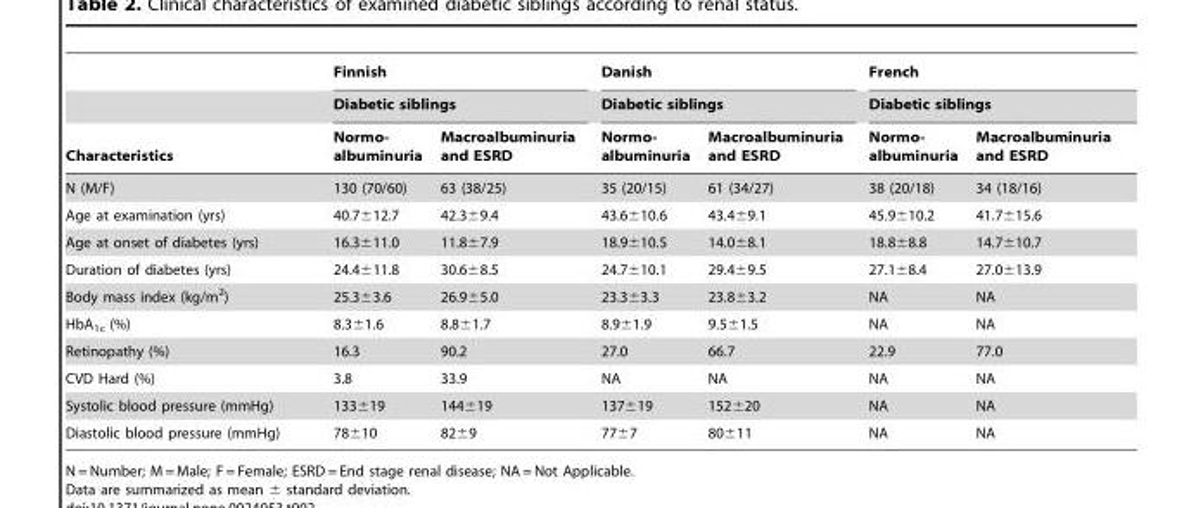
<table><thead><tr><td rowspan="3">Characteristics</td><td rowspan="2" colspan="2">Finnish Diabetic siblings</td><td rowspan="2" colspan="2">Danish Diabetic siblings</td><td rowspan="2" colspan="2">French Diabetic siblings</td></tr><tr></tr><tr><td>Normo- albuminuria</td><td>Macroalbuminuria and ESRD</td><td>Normo- albuminuria</td><td>Macroalbuminuria and ESRD</td><td>Normo- albuminuria</td><td>Macroalbuminuria and ESRD</td></tr></thead><tbody><tr><td>N (M/F)</td><td>130 (70/60)</td><td>63 (38/25)</td><td>35 (20/15)</td><td>61 (34/27)</td><td>38 (20/18)</td><td>34 (18/16)</td></tr><tr><td>Age at examination (yrs)</td><td>40.7±12.7</td><td>42.3±9.4</td><td>43.6±10.6</td><td>43.4±9.1</td><td>45.9±10.2</td><td>41.7±15.6</td></tr><tr><td>Age at onset of diabetes (yrs)</td><td>16.3±11.0</td><td>11.8±7.9</td><td>18.9±10.5</td><td>14.0±8.1</td><td>18.8±8.8</td><td>14.7±10.7</td></tr><tr><td>Duration of diabetes (yrs)</td><td>24.4±11.8</td><td>30.6±8.5</td><td>24.7±10.1</td><td>29.4±9.5</td><td>27.1±8.4</td><td>27.0±13.9</td></tr><tr><td>Body mass index (kg/m<sup>2</sup>)</td><td>25.3±3.6</td><td>26.9±5.0</td><td>23.3±3.3</td><td>23.8±3.2</td><td>NA</td><td>NA</td></tr><tr><td>HbA<sub>1c</sub> (%)</td><td>8.3±1.6</td><td>8.8±1.7</td><td>8.9±1.9</td><td>9.5±1.5</td><td>NA</td><td>NA</td></tr><tr><td>Retinopathy (%)</td><td>16.3</td><td>90.2</td><td>27.0</td><td>66.7</td><td>22.9</td><td>77.0</td></tr><tr><td>CVD Hard (%)</td><td>3.8</td><td>33.9</td><td>NA</td><td>NA</td><td>NA</td><td>NA</td></tr><tr><td>Systolic blood pressure (mmHg)</td><td>133±19</td><td>144±19</td><td>137±19</td><td>152±20</td><td>NA</td><td>NA</td></tr><tr><td>Diastolic blood pressure (mmHg)</td><td>78±10</td><td>82±9</td><td>77±7</td><td>80±11</td><td>NA</td><td>NA</td></tr></tbody></table>